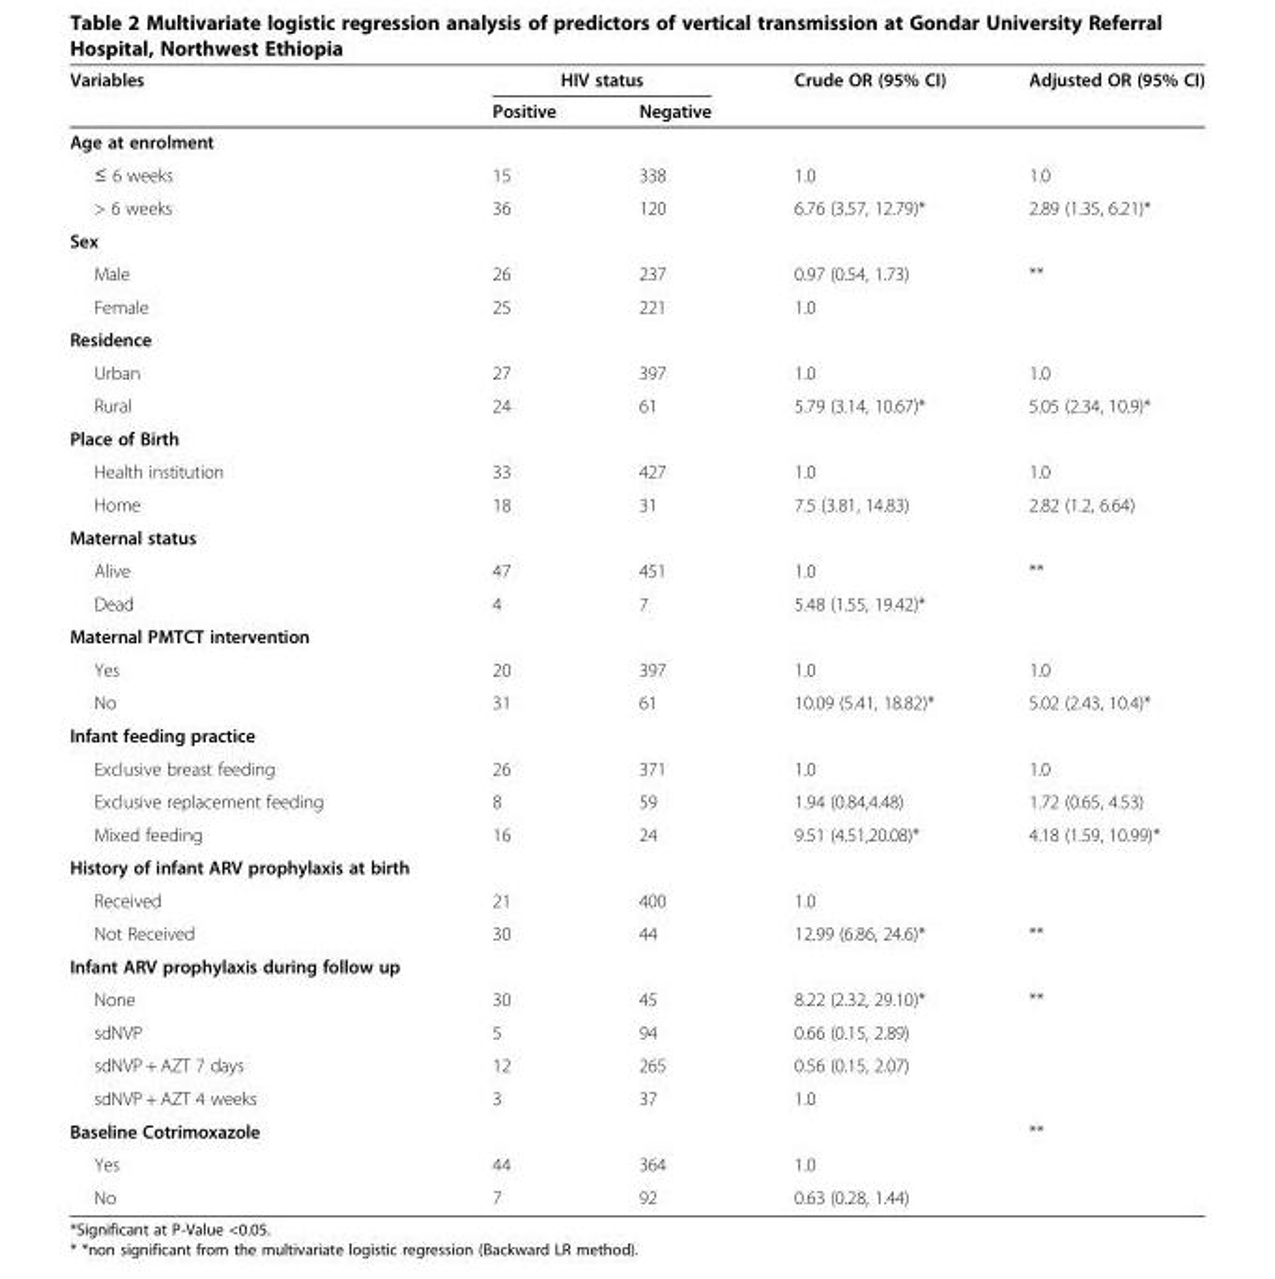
<table><thead><tr><td rowspan="2">Variables</td><td colspan="2">HIV status</td><td rowspan="2">Crude OR (95% CI)</td><td rowspan="2">Adjusted OR (95% CI)</td></tr><tr><td>Positive</td><td>Negative</td></tr></thead><tbody><tr><td colspan="5">Age at enrolment</td></tr><tr><td>≤ 6 weeks</td><td>15</td><td>338</td><td>1.0</td><td>1.0</td></tr><tr><td>&gt; 6 weeks</td><td>36</td><td>120</td><td>6.76 (3.57, 12.79)*</td><td>2.89 (1.35, 6.21)*</td></tr><tr><td colspan="5">Sex</td></tr><tr><td>Male</td><td>26</td><td>237</td><td>0.97 (0.54, 1.73)</td><td>**</td></tr><tr><td>Female</td><td>25</td><td>221</td><td>1.0</td><td></td></tr><tr><td colspan="5">Residence</td></tr><tr><td>Urban</td><td>27</td><td>397</td><td>1.0</td><td>1.0</td></tr><tr><td>Rural</td><td>24</td><td>61</td><td>5.79 (3.14, 10.67)*</td><td>5.05 (2.34, 10.9)*</td></tr><tr><td colspan="5">Place of Birth</td></tr><tr><td>Health institution</td><td>33</td><td>427</td><td>1.0</td><td>1.0</td></tr><tr><td>Home</td><td>18</td><td>31</td><td>7.5 (3.81, 14.83)</td><td>2.82 (1.2, 6.64)</td></tr><tr><td colspan="5">Maternal status</td></tr><tr><td>Alive</td><td>47</td><td>451</td><td>1.0</td><td>**</td></tr><tr><td>Dead</td><td>4</td><td>7</td><td>5.48 (1.55, 19.42)*</td><td></td></tr><tr><td colspan="5">Maternal PMTCT intervention</td></tr><tr><td>Yes</td><td>20</td><td>397</td><td>1.0</td><td>1.0</td></tr><tr><td>No</td><td>31</td><td>61</td><td>10.09 (5.41, 18.82)*</td><td>5.02 (2.43, 10.4)*</td></tr><tr><td colspan="5">Infant feeding practice</td></tr><tr><td>Exclusive breast feeding</td><td>26</td><td>371</td><td>1.0</td><td>1.0</td></tr><tr><td>Exclusive replacement feeding</td><td>8</td><td>59</td><td>1.94 (0.84,4.48)</td><td>1.72 (0.65, 4.53)</td></tr><tr><td>Mixed feeding</td><td>16</td><td>24</td><td>9.51 (4.51,20.08)*</td><td>4.18 (1.59, 10.99)*</td></tr><tr><td colspan="5">History of infant ARV prophylaxis at birth</td></tr><tr><td>Received</td><td>21</td><td>400</td><td>1.0</td><td></td></tr><tr><td>Not Received</td><td>30</td><td>44</td><td>12.99 (6.86, 24.6)*</td><td>**</td></tr><tr><td colspan="5">Infant ARV prophylaxis during follow up</td></tr><tr><td>None</td><td>30</td><td>45</td><td>8.22 (2.32, 29.10)*</td><td>**</td></tr><tr><td>sdNVP</td><td>5</td><td>94</td><td>0.66 (0.15, 2.89)</td><td></td></tr><tr><td>sdNVP + AZT 7 days</td><td>12</td><td>265</td><td>0.56 (0.15, 2.07)</td><td></td></tr><tr><td>sdNVP + AZT 4 weeks</td><td>3</td><td>37</td><td>1.0</td><td></td></tr><tr><td>Baseline Cotrimoxazole</td><td></td><td></td><td></td><td>**</td></tr><tr><td>Yes</td><td>44</td><td>364</td><td>1.0</td><td></td></tr><tr><td>No</td><td>7</td><td>92</td><td>0.63 (0.28, 1.44)</td><td></td></tr></tbody></table>